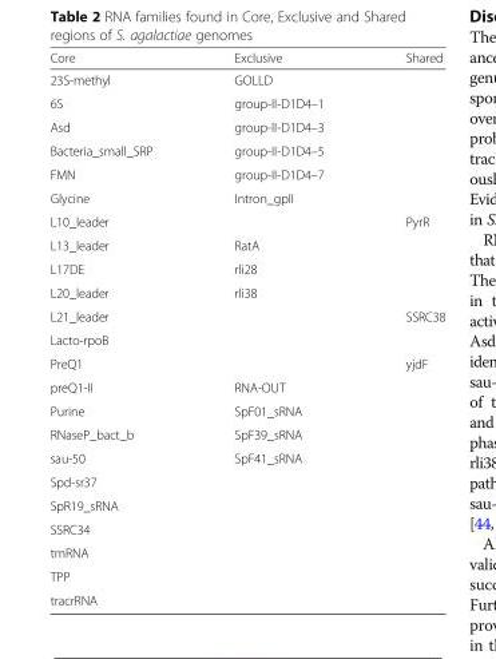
<table><thead><tr><td>Core</td><td>Exclusive</td><td>Shared</td></tr></thead><tbody><tr><td>23S-methyl</td><td>GOLLD</td><td></td></tr><tr><td>6S</td><td>group-II-D1D4–1</td><td></td></tr><tr><td>Asd</td><td>group-II-D1D4–3</td><td></td></tr><tr><td>Bacteria_small_SRP</td><td>group-II-D1D4–5</td><td></td></tr><tr><td>FMN</td><td>group-II-D1D4–7</td><td></td></tr><tr><td>Glycine</td><td>Intron_gpII</td><td></td></tr><tr><td>L10_leader</td><td></td><td>PyrR</td></tr><tr><td>L13_leader</td><td>RatA</td><td></td></tr><tr><td>L17DE</td><td>rli28</td><td></td></tr><tr><td>L20_leader</td><td>rli38</td><td></td></tr><tr><td>L21_leader</td><td></td><td>SSRC38</td></tr><tr><td colspan="3">Lacto-rpoB</td></tr><tr><td>PreQ1</td><td></td><td>yjdF</td></tr><tr><td>preQ1-II</td><td>RNA-OUT</td><td></td></tr><tr><td>Purine</td><td>SpF01_sRNA</td><td></td></tr><tr><td>RNaseP_bact_b</td><td>SpF39_sRNA</td><td></td></tr><tr><td>sau-50</td><td>SpF41_sRNA</td><td></td></tr><tr><td colspan="3">Spd-sr37</td></tr><tr><td colspan="3">SpR19_sRNA</td></tr><tr><td colspan="3">SSRC34</td></tr><tr><td colspan="3">tmRNA</td></tr><tr><td colspan="3">TPP</td></tr><tr><td>tracrRNA</td><td></td><td></td></tr></tbody></table>